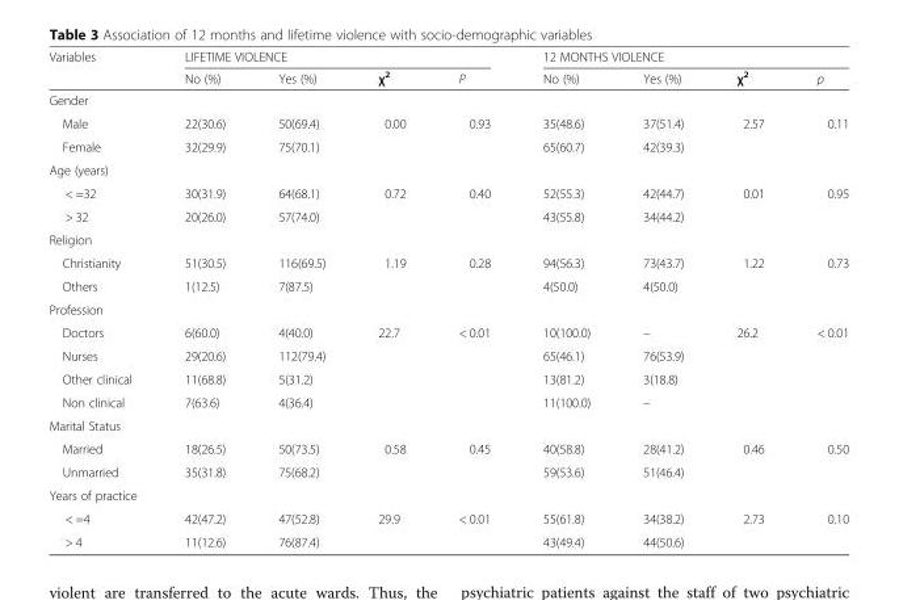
<table><thead><tr><td rowspan="2">Variables</td><td colspan="4">LIFETIME VIOLENCE</td><td colspan="4">12 MONTHS VIOLENCE</td></tr><tr><td>No (%)</td><td>Yes (%)</td><td>χ<sup>2</sup></td><td>P</td><td>No (%)</td><td>Yes (%)</td><td>χ<sup>2</sup></td><td>p</td></tr></thead><tbody><tr><td colspan="9">Gender</td></tr><tr><td>Male</td><td>22(30.6)</td><td>50(69.4)</td><td>0.00</td><td>0.93</td><td>35(48.6)</td><td>37(51.4)</td><td>2.57</td><td>0.11</td></tr><tr><td>Female</td><td>32(29.9)</td><td>75(70.1)</td><td></td><td></td><td>65(60.7)</td><td>42(39.3)</td><td></td><td></td></tr><tr><td colspan="9">Age (years)</td></tr><tr><td>&lt; =32</td><td>30(31.9)</td><td>64(68.1)</td><td>0.72</td><td>0.40</td><td>52(55.3)</td><td>42(44.7)</td><td>0.01</td><td>0.95</td></tr><tr><td>&gt; 32</td><td>20(26.0)</td><td>57(74.0)</td><td></td><td></td><td>43(55.8)</td><td>34(44.2)</td><td></td><td></td></tr><tr><td colspan="9">Religion</td></tr><tr><td>Christianity</td><td>51(30.5)</td><td>116(69.5)</td><td>1.19</td><td>0.28</td><td>94(56.3)</td><td>73(43.7)</td><td>1.22</td><td>0.73</td></tr><tr><td>Others</td><td>1(12.5)</td><td>7(87.5)</td><td></td><td></td><td>4(50.0)</td><td>4(50.0)</td><td></td><td></td></tr><tr><td colspan="9">Profession</td></tr><tr><td>Doctors</td><td>6(60.0)</td><td>4(40.0)</td><td>22.7</td><td>&lt; 0.01</td><td>10(100.0)</td><td>–</td><td>26.2</td><td>&lt; 0.01</td></tr><tr><td>Nurses</td><td>29(20.6)</td><td>112(79.4)</td><td></td><td></td><td>65(46.1)</td><td>76(53.9)</td><td></td><td rowspan="3"></td></tr><tr><td>Other clinical</td><td>11(68.8)</td><td>5(31.2)</td><td></td><td></td><td>13(81.2)</td><td>3(18.8)</td><td></td></tr><tr><td>Non clinical</td><td>7(63.6)</td><td>4(36.4)</td><td></td><td></td><td>11(100.0)</td><td>–</td><td></td></tr><tr><td colspan="9">Marital Status</td></tr><tr><td>Married</td><td>18(26.5)</td><td>50(73.5)</td><td>0.58</td><td>0.45</td><td>40(58.8)</td><td>28(41.2)</td><td>0.46</td><td>0.50</td></tr><tr><td>Unmarried</td><td>35(31.8)</td><td>75(68.2)</td><td></td><td></td><td>59(53.6)</td><td>51(46.4)</td><td></td><td></td></tr><tr><td colspan="9">Years of practice</td></tr><tr><td>&lt; =4</td><td>42(47.2)</td><td>47(52.8)</td><td>29.9</td><td>&lt; 0.01</td><td>55(61.8)</td><td>34(38.2)</td><td>2.73</td><td>0.10</td></tr><tr><td>&gt; 4</td><td>11(12.6)</td><td>76(87.4)</td><td></td><td></td><td>43(49.4)</td><td>44(50.6)</td><td></td><td></td></tr></tbody></table>